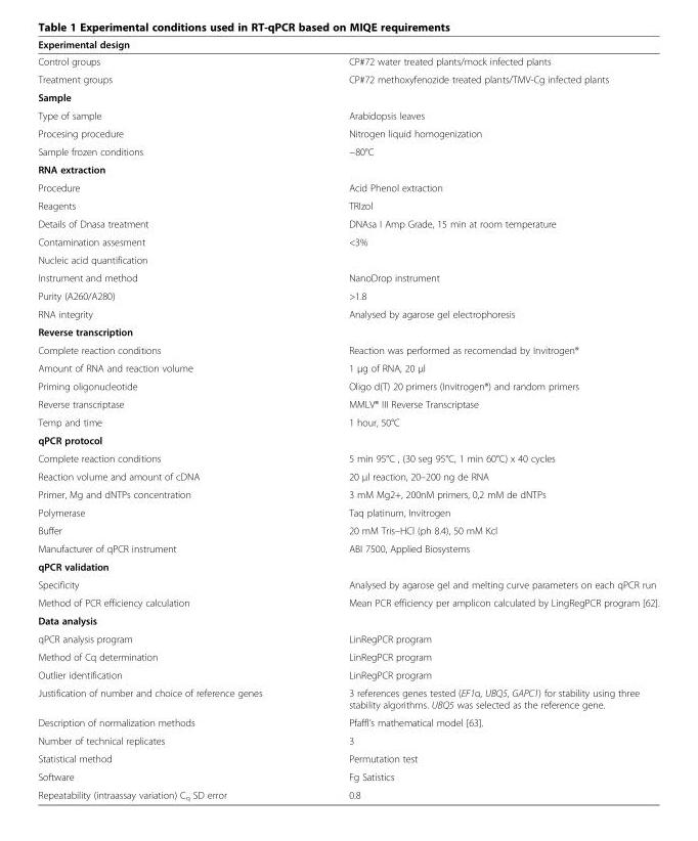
<table><thead><tr><td>Experimental design</td><td></td></tr></thead><tbody><tr><td>Control groups</td><td>CP#72 water treated plants/mock infected plants</td></tr><tr><td>Treatment groups</td><td>CP#72 methoxyfenozide treated plants/TMV-Cg infected plants</td></tr><tr><td colspan="2">Sample</td></tr><tr><td>Type of sample</td><td>Arabidopsis leaves</td></tr><tr><td>Procesing procedure</td><td>Nitrogen liquid homogenization</td></tr><tr><td>Sample frozen conditions</td><td>−80°C</td></tr><tr><td colspan="2">RNA extraction</td></tr><tr><td>Procedure</td><td>Acid Phenol extraction</td></tr><tr><td>Reagents</td><td>TRIzol</td></tr><tr><td>Details of Dnasa treatment</td><td>DNAsa I Amp Grade, 15 min at room temperature</td></tr><tr><td>Contamination assesment</td><td>&lt;3%</td></tr><tr><td colspan="2">Nucleic acid quantification</td></tr><tr><td>Instrument and method</td><td>NanoDrop instrument</td></tr><tr><td>Purity (A260/A280)</td><td>&gt;1.8</td></tr><tr><td>RNA integrity</td><td>Analysed by agarose gel electrophoresis</td></tr><tr><td colspan="2">Reverse transcription</td></tr><tr><td>Complete reaction conditions</td><td>Reaction was performed as recomendad by Invitrogen®</td></tr><tr><td>Amount of RNA and reaction volume</td><td>1 μg of RNA, 20 μl</td></tr><tr><td>Priming oligonucleotide</td><td>Oligo d(T) 20 primers (Invitrogen®) and random primers</td></tr><tr><td>Reverse transcriptase</td><td>MMLV® III Reverse Transcriptase</td></tr><tr><td>Temp and time</td><td>1 hour, 50°C</td></tr><tr><td colspan="2">qPCR protocol</td></tr><tr><td>Complete reaction conditions</td><td>5 min 95°C , (30 seg 95°C, 1 min 60°C) x 40 cycles</td></tr><tr><td>Reaction volume and amount of cDNA</td><td>20 μl reaction, 20–200 ng de RNA</td></tr><tr><td>Primer, Mg and dNTPs concentration</td><td>3 mM Mg2+, 200nM primers, 0,2 mM de dNTPs</td></tr><tr><td>Polymerase</td><td>Taq platinum, Invitrogen</td></tr><tr><td>Buffer</td><td>20 mM Tris–HCl (ph 8.4), 50 mM Kcl</td></tr><tr><td>Manufacturer of qPCR instrument</td><td>ABI 7500, Applied Biosystems</td></tr><tr><td colspan="2">qPCR validation</td></tr><tr><td>Specificity</td><td>Analysed by agarose gel and melting curve parameters on each qPCR run</td></tr><tr><td>Method of PCR efficiency calculation</td><td>Mean PCR efficiency per amplicon calculated by LingRegPCR program [62].</td></tr><tr><td colspan="2">Data analysis</td></tr><tr><td>qPCR analysis program</td><td>LinRegPCR program</td></tr><tr><td>Method of Cq determination</td><td>LinRegPCR program</td></tr><tr><td>Outlier identification</td><td>LinRegPCR program</td></tr><tr><td>Justification of number and choice of reference genes</td><td>3 references genes tested (EF1α, UBQ5, GAPC1) for stability using three stability algorithms. UBQ5 was selected as the reference gene.</td></tr><tr><td>Description of normalization methods</td><td>Pfaffl’s mathematical model [63].</td></tr><tr><td>Number of technical replicates</td><td>3</td></tr><tr><td>Statistical method</td><td>Permutation test</td></tr><tr><td>Software</td><td>Fg Satistics</td></tr><tr><td>Repeatability (intraassay variation) C<sub>q</sub> SD error</td><td>0.8</td></tr></tbody></table>